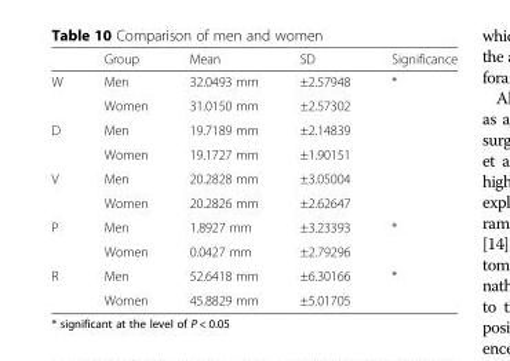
<table><thead><tr><td></td><td>Group</td><td>Mean</td><td>SD</td><td>Significance</td></tr></thead><tbody><tr><td rowspan="2">W</td><td>Men</td><td>32.0493 mm</td><td>±2.57948</td><td rowspan="2">*</td></tr><tr><td>Women</td><td>31.0150 mm</td><td>±2.57302</td></tr><tr><td rowspan="2">D</td><td>Men</td><td>19.7189 mm</td><td>±2.14839</td><td rowspan="2"></td></tr><tr><td>Women</td><td>19.1727 mm</td><td>±1.90151</td></tr><tr><td rowspan="2">V</td><td>Men</td><td>20.2828 mm</td><td>±3.05004</td><td rowspan="2"></td></tr><tr><td>Women</td><td>20.2826 mm</td><td>±2.62647</td></tr><tr><td rowspan="2">P</td><td>Men</td><td>1.8927 mm</td><td>±3.23393</td><td rowspan="2">*</td></tr><tr><td>Women</td><td>0.0427 mm</td><td>±2.79296</td></tr><tr><td rowspan="2">R</td><td>Men</td><td>52.6418 mm</td><td>±6.30166</td><td rowspan="2">*</td></tr><tr><td>Women</td><td>45.8829 mm</td><td>±5.01705</td></tr></tbody></table>